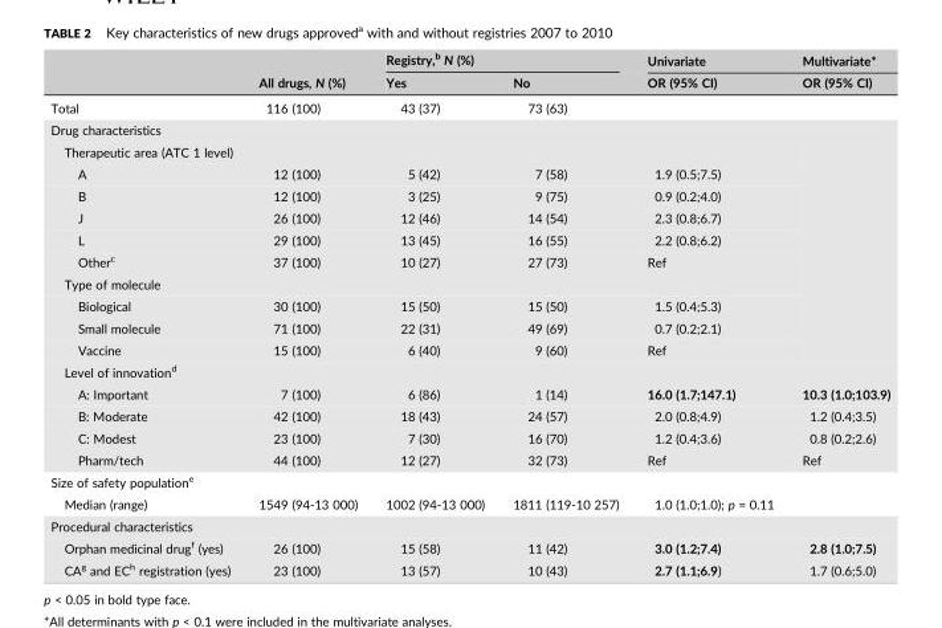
<table><thead><tr><td rowspan="2"></td><td rowspan="2">All drugs, N (%)</td><td colspan="2">Registry,<sup>b</sup> N (%)</td><td rowspan="2">Univariate OR (95% CI)</td><td rowspan="2">Multivariate* OR (95% CI)</td></tr><tr><td>Yes</td><td>No</td></tr></thead><tbody><tr><td>Total</td><td>116 (100)</td><td>43 (37)</td><td>73 (63)</td><td></td><td></td></tr><tr><td colspan="6">Drug characteristics</td></tr><tr><td colspan="5">Therapeutic area (ATC 1 level)</td><td rowspan="6"></td></tr><tr><td>A</td><td>12 (100)</td><td>5 (42)</td><td>7 (58)</td><td>1.9 (0.5;7.5)</td></tr><tr><td>B</td><td>12 (100)</td><td>3 (25)</td><td>9 (75)</td><td>0.9 (0.2;4.0)</td></tr><tr><td>J</td><td>26 (100)</td><td>12 (46)</td><td>14 (54)</td><td>2.3 (0.8;6.7)</td></tr><tr><td>L</td><td>29 (100)</td><td>13 (45)</td><td>16 (55)</td><td>2.2 (0.8;6.2)</td></tr><tr><td>Other<sup>c</sup></td><td>37 (100)</td><td>10 (27)</td><td>27 (73)</td><td>Ref</td></tr><tr><td colspan="5">Type of molecule</td><td rowspan="4"></td></tr><tr><td>Biological</td><td>30 (100)</td><td>15 (50)</td><td>15 (50)</td><td>1.5 (0.4;5.3)</td></tr><tr><td>Small molecule</td><td>71 (100)</td><td>22 (31)</td><td>49 (69)</td><td>0.7 (0.2;2.1)</td></tr><tr><td>Vaccine</td><td>15 (100)</td><td>6 (40)</td><td>9 (60)</td><td>Ref</td></tr><tr><td colspan="6">Level of innovation<sup>d</sup></td></tr><tr><td>A: Important</td><td>7 (100)</td><td>6 (86)</td><td>1 (14)</td><td>16.0 (1.7;147.1)</td><td>10.3 (1.0;103.9)</td></tr><tr><td>B: Moderate</td><td>42 (100)</td><td>18 (43)</td><td>24 (57)</td><td>2.0 (0.8;4.9)</td><td>1.2 (0.4;3.5)</td></tr><tr><td>C: Modest</td><td>23 (100)</td><td>7 (30)</td><td>16 (70)</td><td>1.2 (0.4;3.6)</td><td>0.8 (0.2;2.6)</td></tr><tr><td>Pharm/tech</td><td>44 (100)</td><td>12 (27)</td><td>32 (73)</td><td>Ref</td><td>Ref</td></tr><tr><td colspan="5">Size of safety population<sup>e</sup></td><td rowspan="2"></td></tr><tr><td>Median (range)</td><td>1549 (94‐13 000)</td><td>1002 (94‐13 000)</td><td>1811 (119‐10 257)</td><td>1.0 (1.0;1.0); p = 0.11</td></tr><tr><td colspan="6">Procedural characteristics</td></tr><tr><td>Orphan medicinal drug<sup>f</sup> (yes)</td><td>26 (100)</td><td>15 (58)</td><td>11 (42)</td><td>3.0 (1.2;7.4)</td><td>2.8 (1.0;7.5)</td></tr><tr><td>CA<sup>g</sup> and EC<sup>h</sup> registration (yes)</td><td>23 (100)</td><td>13 (57)</td><td>10 (43)</td><td>2.7 (1.1;6.9)</td><td>1.7 (0.6;5.0)</td></tr></tbody></table>